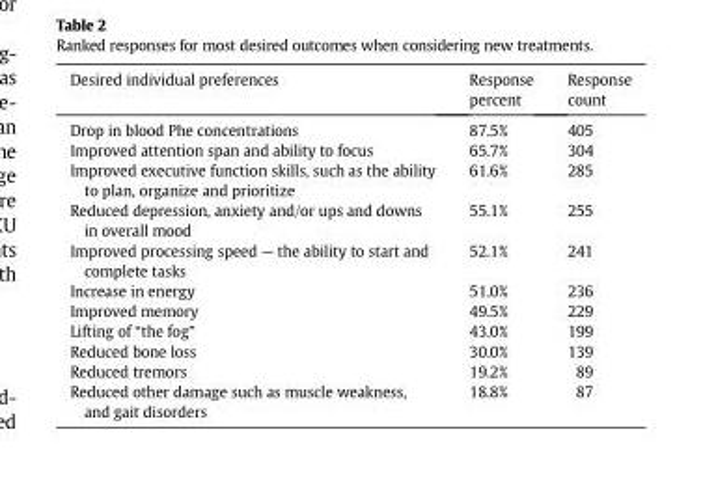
<table><thead><tr><td>Desired individual preferences</td><td>Response percent</td><td>Response count</td></tr></thead><tbody><tr><td>Drop in blood Phe concentrations</td><td>87.5%</td><td>405</td></tr><tr><td>Improved attention span and ability to focus</td><td>65.7%</td><td>304</td></tr><tr><td>Improved executive function skills, such as the ability to plan, organize and prioritize</td><td>61.6%</td><td>285</td></tr><tr><td>Reduced depression, anxiety and/or ups and downs in overall mood</td><td>55.1%</td><td>255</td></tr><tr><td>Improved processing speed — the ability to start and complete tasks</td><td>52.1%</td><td>241</td></tr><tr><td>Increase in energy</td><td>51.0%</td><td>236</td></tr><tr><td>Improved memory</td><td>49.5%</td><td>229</td></tr><tr><td>Lifting of “the fog”</td><td>43.0%</td><td>199</td></tr><tr><td>Reduced bone loss</td><td>30.0%</td><td>139</td></tr><tr><td>Reduced tremors</td><td>19.2%</td><td>89</td></tr><tr><td>Reduced other damage such as muscle weakness, and gait disorders</td><td>18.8%</td><td>87</td></tr></tbody></table>